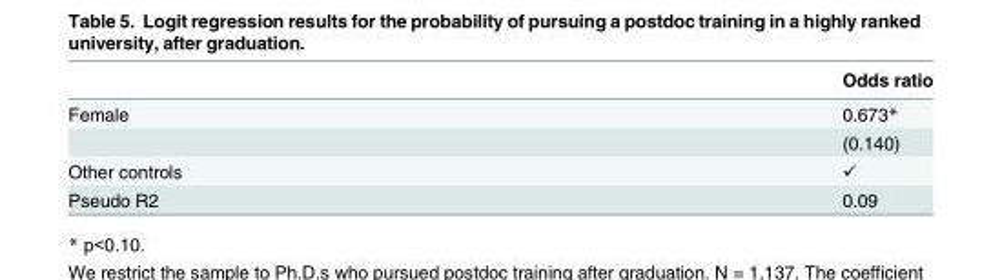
<table><thead><tr><td></td><td>Odds ratio</td></tr></thead><tbody><tr><td rowspan="2">Female</td><td>0.673*</td></tr><tr><td>(0.140)</td></tr><tr><td>Other controls</td><td>✓</td></tr><tr><td>Pseudo R2</td><td>0.09</td></tr></tbody></table>